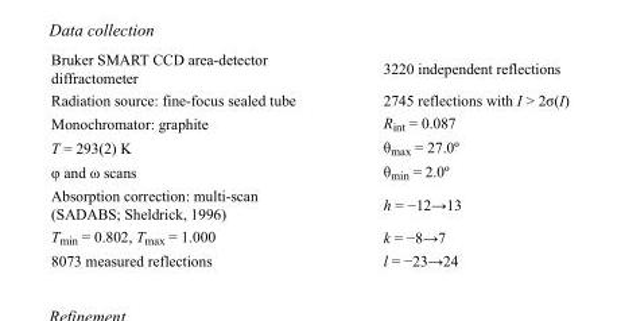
<table><tbody><tr><td>Bruker SMART CCD area-detector diffractometer</td><td>3220 independent reflections</td></tr><tr><td>Radiation source: fine-focus sealed tube</td><td>2745 reflections with I &gt; 2σ(I)</td></tr><tr><td>Monochromator: graphite</td><td>R<sub>int</sub> = 0.087</td></tr><tr><td>T = 293(2) K</td><td>θ<sub>max</sub> = 27.0º</td></tr><tr><td>φ and ω scans</td><td>θ<sub>min</sub> = 2.0º</td></tr><tr><td>Absorption correction: multi-scan (SADABS; Sheldrick, 1996)</td><td>h = −12→13</td></tr><tr><td>T<sub>min</sub> = 0.802, T<sub>max</sub> = 1.000</td><td>k = −8→7</td></tr><tr><td>8073 measured reflections</td><td>l = −23→24</td></tr></tbody></table>